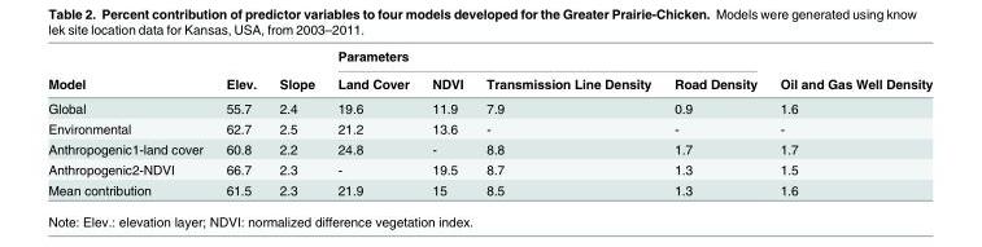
<table><thead><tr><td rowspan="2">Model</td><td rowspan="2">Elev.</td><td rowspan="2">Slope</td><td colspan="4">Parameters</td><td rowspan="2">Oil and Gas Well Density</td></tr><tr><td>Land Cover</td><td>NDVI</td><td>Transmission Line Density</td><td>Road Density</td></tr></thead><tbody><tr><td>Global</td><td>55.7</td><td>2.4</td><td>19.6</td><td>11.9</td><td>7.9</td><td>0.9</td><td>1.6</td></tr><tr><td>Environmental</td><td>62.7</td><td>2.5</td><td>21.2</td><td>13.6</td><td>-</td><td>-</td><td>-</td></tr><tr><td>Anthropogenic1-land cover</td><td>60.8</td><td>2.2</td><td>24.8</td><td>-</td><td>8.8</td><td>1.7</td><td>1.7</td></tr><tr><td>Anthropogenic2-NDVI</td><td>66.7</td><td>2.3</td><td>-</td><td>19.5</td><td>8.7</td><td>1.3</td><td>1.5</td></tr><tr><td>Mean contribution</td><td>61.5</td><td>2.3</td><td>21.9</td><td>15</td><td>8.5</td><td>1.3</td><td>1.6</td></tr></tbody></table>